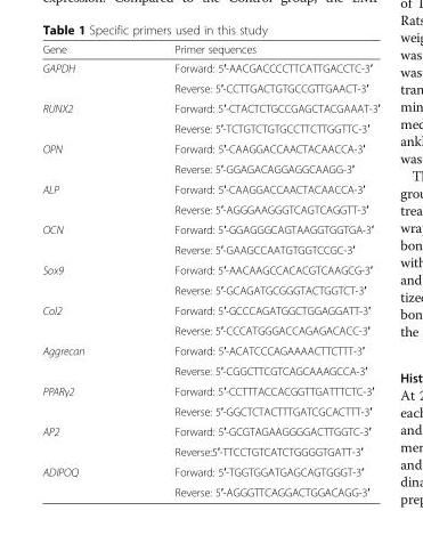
<table><thead><tr><td>Gene</td><td>Primer sequences</td></tr></thead><tbody><tr><td rowspan="2">GAPDH</td><td>Forward: 5′-AACGACCCCTTCATTGACCTC-3′</td></tr><tr><td>Reverse: 5′-CCTTGACTGTGCCGTTGAACT-3′</td></tr><tr><td rowspan="2">RUNX2</td><td>Forward: 5′-CTACTCTGCCGAGCTACGAAAT-3′</td></tr><tr><td>Reverse: 5′-TCTGTCTGTGCCTTCTTGGTTC-3′</td></tr><tr><td rowspan="2">OPN</td><td>Forward: 5′-CAAGGACCAACTACAACCA-3′</td></tr><tr><td>Reverse: 5′-GGAGACAGGAGGCAAGG-3′</td></tr><tr><td rowspan="2">ALP</td><td>Forward: 5′-CAAGGACCAACTACAACCA-3′</td></tr><tr><td>Reverse: 5′-AGGGAAGGGTCAGTCAGGTT-3′</td></tr><tr><td rowspan="2">OCN</td><td>Forward: 5′-GGAGGGCAGTAAGGTGGTGA-3′</td></tr><tr><td>Reverse: 5′-GAAGCCAATGTGGTCCGC-3′</td></tr><tr><td rowspan="2">Sox9</td><td>Forward: 5′-AACAAGCCACACGTCAAGCG-3′</td></tr><tr><td>Reverse: 5′-GCAGATGCGGGTACTGGTCT-3′</td></tr><tr><td rowspan="2">Col2</td><td>Forward: 5′-GCCCAGATGGCTGGAGGATT-3′</td></tr><tr><td>Reverse: 5′-CCCATGGGACCAGAGACACC-3′</td></tr><tr><td rowspan="2">Aggrecan</td><td>Forward: 5′-ACATCCCAGAAAACTTCTTT-3′</td></tr><tr><td>Reverse: 5′-CGGCTTCGTCAGCAAAGCCA-3′</td></tr><tr><td rowspan="2">PPARγ2</td><td>Forward: 5′-CCTTTACCACGGTTGATTTCTC-3′</td></tr><tr><td>Reverse: 5′-GGCTCTACTTTGATCGCACTTT-3′</td></tr><tr><td rowspan="2">AP2</td><td>Forward: 5′-GCGTAGAAGGGGACTTGGTC-3′</td></tr><tr><td>Reverse:5′-TTCCTGTCATCTGGGGTGATT-3′</td></tr><tr><td rowspan="2">ADIPOQ</td><td>Forward: 5′-TGGTGGATGAGCAGTGGGT-3′</td></tr><tr><td>Reverse: 5′-AGGGTTCAGGACTGGACAGG-3′</td></tr></tbody></table>